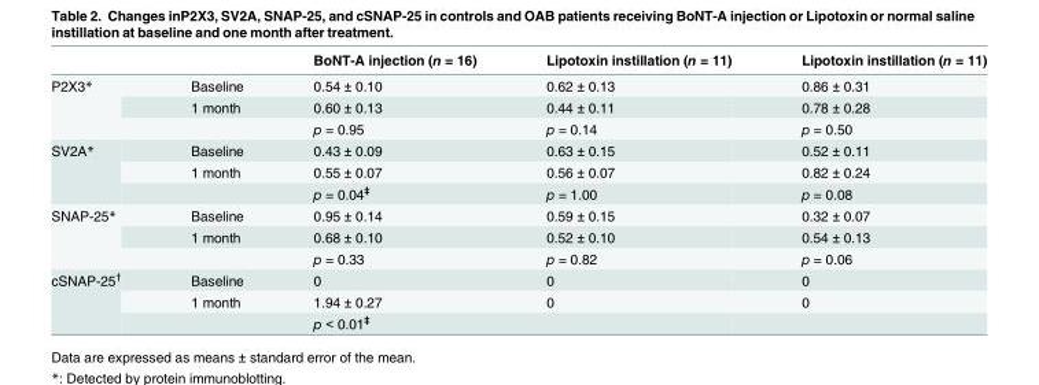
<table><thead><tr><td></td><td></td><td>BoNT-A injection (n = 16)</td><td>Lipotoxin instillation (n = 11)</td><td>Lipotoxin instillation (n = 11)</td></tr></thead><tbody><tr><td rowspan="3">P2X3*</td><td>Baseline</td><td>0.54 ± 0.10</td><td>0.62 ± 0.13</td><td>0.86 ± 0.31</td></tr><tr><td>1 month</td><td>0.60 ± 0.13</td><td>0.44 ± 0.11</td><td>0.78 ± 0.28</td></tr><tr><td></td><td>p = 0.95</td><td>p = 0.14</td><td>p = 0.50</td></tr><tr><td rowspan="3">SV2A*</td><td>Baseline</td><td>0.43 ± 0.09</td><td>0.63 ± 0.15</td><td>0.52 ± 0.11</td></tr><tr><td>1 month</td><td>0.55 ± 0.07</td><td>0.56 ± 0.07</td><td>0.82 ± 0.24</td></tr><tr><td></td><td>p = 0.04<sup>‡</sup></td><td>p = 1.00</td><td>p = 0.08</td></tr><tr><td rowspan="3">SNAP-25*</td><td>Baseline</td><td>0.95 ± 0.14</td><td>0.59 ± 0.15</td><td>0.32 ± 0.07</td></tr><tr><td>1 month</td><td>0.68 ± 0.10</td><td>0.52 ± 0.10</td><td>0.54 ± 0.13</td></tr><tr><td></td><td>p = 0.33</td><td>p = 0.82</td><td>p = 0.06</td></tr><tr><td rowspan="3">cSNAP-25<sup>†</sup></td><td>Baseline</td><td>0</td><td>0</td><td>0</td></tr><tr><td>1 month</td><td>1.94 ± 0.27</td><td>0</td><td>0</td></tr><tr><td></td><td>p &lt; 0.01<sup>‡</sup></td><td></td><td></td></tr></tbody></table>